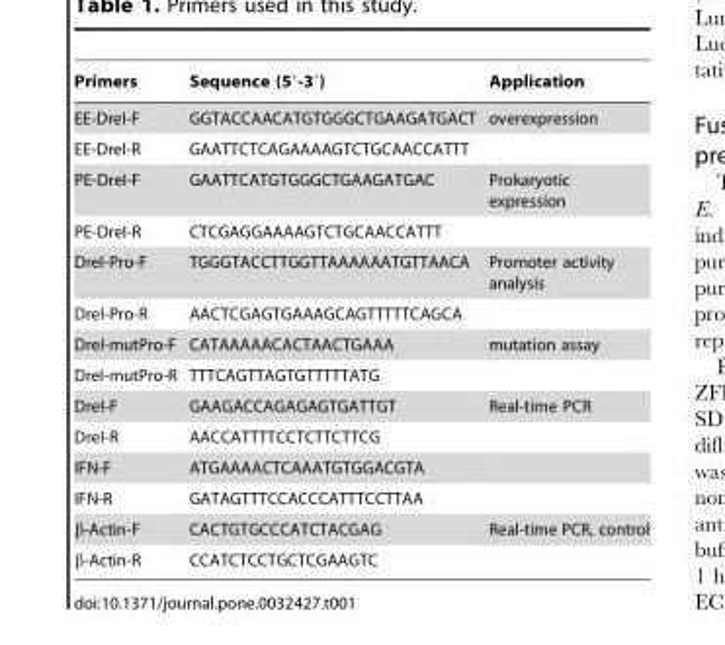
<table><thead><tr><td>Primers</td><td>Sequence (5′-3′)</td><td>Application</td></tr></thead><tbody><tr><td>EE-DreI-F</td><td>GGTACCAACATGTGGGCTGAAGATGACT</td><td>overexpression</td></tr><tr><td>EE-DreI-R</td><td>GAATTCTCAGAAAAGTCTGCAACCATTT</td><td></td></tr><tr><td>PE-DreI-F</td><td>GAATTCATGTGGGCTGAAGATGAC</td><td>Prokaryotic expression</td></tr><tr><td>PE-DreI-R</td><td>CTCGAGGAAAAGTCTGCAACCATTT</td><td></td></tr><tr><td>DreI-Pro-F</td><td>TGGGTACCTTGGTTAAAAAATGTTAACA</td><td>Promoter activity analysis</td></tr><tr><td>DreI-Pro-R</td><td>AACTCGAGTGAAAGCAGTTTTTCAGCA</td><td></td></tr><tr><td>DreI-mutPro-F</td><td>CATAAAAACACTAACTGAAA</td><td>mutation assay</td></tr><tr><td>DreI-mutPro-R</td><td>TTTCAGTTAGTGTTTTTATG</td><td></td></tr><tr><td>DreI-F</td><td>GAAGACCAGAGAGTGATTGT</td><td>Real-time PCR</td></tr><tr><td>DreI-R</td><td>AACCATTTTCCTCTTCTTCG</td><td></td></tr><tr><td>IFN-F</td><td>ATGAAAACTCAAATGTGGACGTA</td><td></td></tr><tr><td>IFN-R</td><td>GATAGTTTCCACCCATTTCCTTAA</td><td></td></tr><tr><td>β-Actin-F</td><td>CACTGTGCCCATCTACGAG</td><td>Real-time PCR, control</td></tr><tr><td>β-Actin-R</td><td>CCATCTCCTGCTCGAAGTC</td><td></td></tr></tbody></table>